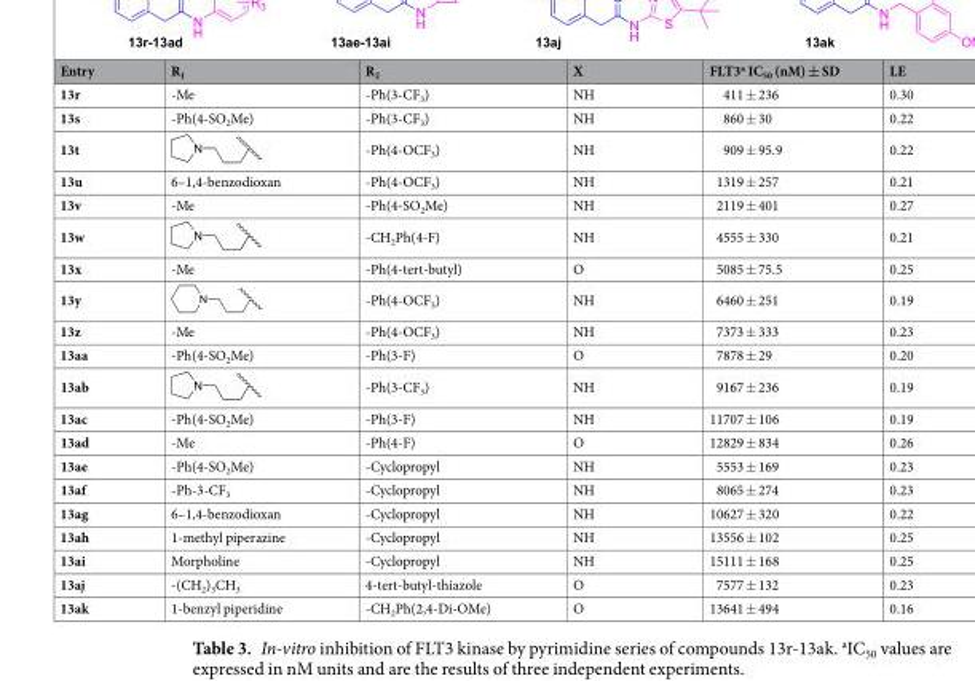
<table><thead><tr><td>Entry</td><td>R<sub>1</sub></td><td>R<sub>2</sub></td><td>X</td><td>FLT3<sup>a</sup> IC<sub>50</sub> (nM) ± SD</td><td>LE</td></tr></thead><tbody><tr><td>13r</td><td>-Me</td><td>-Ph(3-CF<sub>3</sub>)</td><td>NH</td><td>411 ± 236</td><td>0.30</td></tr><tr><td>13s</td><td>-Ph(4-SO<sub>2</sub>Me)</td><td>-Ph(3-CF<sub>3</sub>)</td><td>NH</td><td>860 ± 30</td><td>0.22</td></tr><tr><td>13t</td><td>N</td><td>-Ph(4-OCF<sub>3</sub>)</td><td>NH</td><td>909 ± 95.9</td><td>0.22</td></tr><tr><td>13u</td><td>6–1,4-benzodioxan</td><td>-Ph(4-OCF<sub>3</sub>)</td><td>NH</td><td>1319 ± 257</td><td>0.21</td></tr><tr><td>13v</td><td>-Me</td><td>-Ph(4-SO<sub>2</sub>Me)</td><td>NH</td><td>2119 ± 401</td><td>0.27</td></tr><tr><td>13w</td><td>N</td><td>-CH<sub>2</sub>Ph(4-F)</td><td>NH</td><td>4555 ± 330</td><td>0.21</td></tr><tr><td>13x</td><td>-Me</td><td>-Ph(4-tert-butyl)</td><td>O</td><td>5085 ± 75.5</td><td>0.25</td></tr><tr><td>13y</td><td>N</td><td>-Ph(4-OCF<sub>3</sub>)</td><td>NH</td><td>6460 ± 251</td><td>0.19</td></tr><tr><td>13z</td><td>-Me</td><td>-Ph(4-OCF<sub>3</sub>)</td><td>NH</td><td>7373 ± 333</td><td>0.23</td></tr><tr><td>13aa</td><td>-Ph(4-SO<sub>2</sub>Me)</td><td>-Ph(3-F)</td><td>O</td><td>7878 ± 29</td><td>0.20</td></tr><tr><td>13ab</td><td>N</td><td>-Ph(3-CF<sub>3</sub>)</td><td>NH</td><td>9167 ± 236</td><td>0.19</td></tr><tr><td>13ac</td><td>-Ph(4-SO<sub>2</sub>Me)</td><td>-Ph(3-F)</td><td>NH</td><td>11707 ± 106</td><td>0.19</td></tr><tr><td>13ad</td><td>-Me</td><td>-Ph(4-F)</td><td>O</td><td>12829 ± 834</td><td>0.26</td></tr><tr><td>13ae</td><td>-Ph(4-SO<sub>2</sub>Me)</td><td>-Cyclopropyl</td><td>NH</td><td>5553 ± 169</td><td>0.23</td></tr><tr><td>13af</td><td>-Ph-3-CF<sub>3</sub></td><td>-Cyclopropyl</td><td>NH</td><td>8065 ± 274</td><td>0.23</td></tr><tr><td>13ag</td><td>6–1,4-benzodioxan</td><td>-Cyclopropyl</td><td>NH</td><td>10627 ± 320</td><td>0.22</td></tr><tr><td>13ah</td><td>1-methyl piperazine</td><td>-Cyclopropyl</td><td>NH</td><td>13556 ± 102</td><td>0.25</td></tr><tr><td>13ai</td><td>Morpholine</td><td>-Cyclopropyl</td><td>NH</td><td>15111 ± 168</td><td>0.25</td></tr><tr><td>13aj</td><td>-(CH<sub>2</sub>)<sub>3</sub>CH<sub>3</sub></td><td>4-tert-butyl-thiazole</td><td>O</td><td>7577 ± 132</td><td>0.23</td></tr><tr><td>13ak</td><td>1-benzyl piperidine</td><td>-CH<sub>2</sub>Ph(2,4-Di-OMe)</td><td>O</td><td>13641 ± 494</td><td>0.16</td></tr></tbody></table>